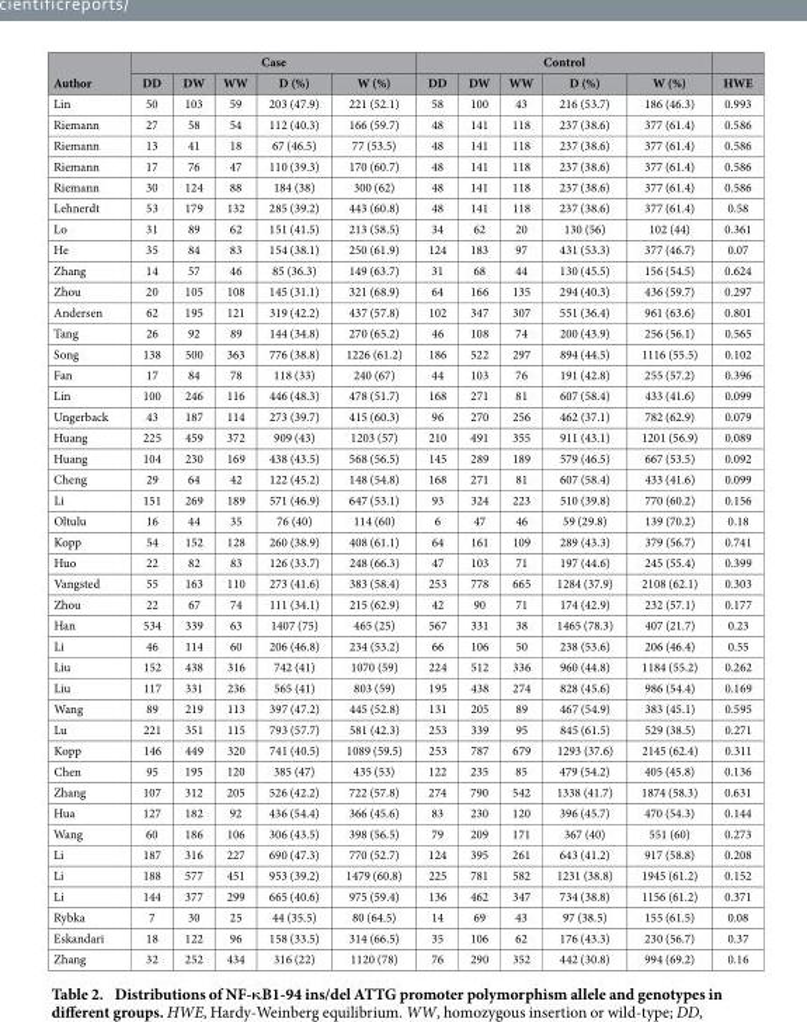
<table><thead><tr><td rowspan="2">Author</td><td colspan="5">Case</td><td colspan="5">Control</td><td rowspan="2">HWE</td></tr><tr><td>DD</td><td>DW</td><td>WW</td><td>D (%)</td><td>W (%)</td><td>DD</td><td>DW</td><td>WW</td><td>D (%)</td><td>W (%)</td></tr></thead><tbody><tr><td>Lin</td><td>50</td><td>103</td><td>59</td><td>203 (47.9)</td><td>221 (52.1)</td><td>58</td><td>100</td><td>43</td><td>216 (53.7)</td><td>186 (46.3)</td><td>0.993</td></tr><tr><td>Riemann</td><td>27</td><td>58</td><td>54</td><td>112 (40.3)</td><td>166 (59.7)</td><td>48</td><td>141</td><td>118</td><td>237 (38.6)</td><td>377 (61.4)</td><td>0.586</td></tr><tr><td>Riemann</td><td>13</td><td>41</td><td>18</td><td>67 (46.5)</td><td>77 (53.5)</td><td>48</td><td>141</td><td>118</td><td>237 (38.6)</td><td>377 (61.4)</td><td>0.586</td></tr><tr><td>Riemann</td><td>17</td><td>76</td><td>47</td><td>110 (39.3)</td><td>170 (60.7)</td><td>48</td><td>141</td><td>118</td><td>237 (38.6)</td><td>377 (61.4)</td><td>0.586</td></tr><tr><td>Riemann</td><td>30</td><td>124</td><td>88</td><td>184 (38)</td><td>300 (62)</td><td>48</td><td>141</td><td>118</td><td>237 (38.6)</td><td>377 (61.4)</td><td>0.586</td></tr><tr><td>Lehnerdt</td><td>53</td><td>179</td><td>132</td><td>285 (39.2)</td><td>443 (60.8)</td><td>48</td><td>141</td><td>118</td><td>237 (38.6)</td><td>377 (61.4)</td><td>0.58</td></tr><tr><td>Lo</td><td>31</td><td>89</td><td>62</td><td>151 (41.5)</td><td>213 (58.5)</td><td>34</td><td>62</td><td>20</td><td>130 (56)</td><td>102 (44)</td><td>0.361</td></tr><tr><td>He</td><td>35</td><td>84</td><td>83</td><td>154 (38.1)</td><td>250 (61.9)</td><td>124</td><td>183</td><td>97</td><td>431 (53.3)</td><td>377 (46.7)</td><td>0.07</td></tr><tr><td>Zhang</td><td>14</td><td>57</td><td>46</td><td>85 (36.3)</td><td>149 (63.7)</td><td>31</td><td>68</td><td>44</td><td>130 (45.5)</td><td>156 (54.5)</td><td>0.624</td></tr><tr><td>Zhou</td><td>20</td><td>105</td><td>108</td><td>145 (31.1)</td><td>321 (68.9)</td><td>64</td><td>166</td><td>135</td><td>294 (40.3)</td><td>436 (59.7)</td><td>0.297</td></tr><tr><td>Andersen</td><td>62</td><td>195</td><td>121</td><td>319 (42.2)</td><td>437 (57.8)</td><td>102</td><td>347</td><td>307</td><td>551 (36.4)</td><td>961 (63.6)</td><td>0.801</td></tr><tr><td>Tang</td><td>26</td><td>92</td><td>89</td><td>144 (34.8)</td><td>270 (65.2)</td><td>46</td><td>108</td><td>74</td><td>200 (43.9)</td><td>256 (56.1)</td><td>0.565</td></tr><tr><td>Song</td><td>138</td><td>500</td><td>363</td><td>776 (38.8)</td><td>1226 (61.2)</td><td>186</td><td>522</td><td>297</td><td>894 (44.5)</td><td>1116 (55.5)</td><td>0.102</td></tr><tr><td>Fan</td><td>17</td><td>84</td><td>78</td><td>118 (33)</td><td>240 (67)</td><td>44</td><td>103</td><td>76</td><td>191 (42.8)</td><td>255 (57.2)</td><td>0.396</td></tr><tr><td>Lin</td><td>100</td><td>246</td><td>116</td><td>446 (48.3)</td><td>478 (51.7)</td><td>168</td><td>271</td><td>81</td><td>607 (58.4)</td><td>433 (41.6)</td><td>0.099</td></tr><tr><td>Ungerback</td><td>43</td><td>187</td><td>114</td><td>273 (39.7)</td><td>415 (60.3)</td><td>96</td><td>270</td><td>256</td><td>462 (37.1)</td><td>782 (62.9)</td><td>0.079</td></tr><tr><td>Huang</td><td>225</td><td>459</td><td>372</td><td>909 (43)</td><td>1203 (57)</td><td>210</td><td>491</td><td>355</td><td>911 (43.1)</td><td>1201 (56.9)</td><td>0.089</td></tr><tr><td>Huang</td><td>104</td><td>230</td><td>169</td><td>438 (43.5)</td><td>568 (56.5)</td><td>145</td><td>289</td><td>189</td><td>579 (46.5)</td><td>667 (53.5)</td><td>0.092</td></tr><tr><td>Cheng</td><td>29</td><td>64</td><td>42</td><td>122 (45.2)</td><td>148 (54.8)</td><td>168</td><td>271</td><td>81</td><td>607 (58.4)</td><td>433 (41.6)</td><td>0.099</td></tr><tr><td>Li</td><td>151</td><td>269</td><td>189</td><td>571 (46.9)</td><td>647 (53.1)</td><td>93</td><td>324</td><td>223</td><td>510 (39.8)</td><td>770 (60.2)</td><td>0.156</td></tr><tr><td>Oltulu</td><td>16</td><td>44</td><td>35</td><td>76 (40)</td><td>114 (60)</td><td>6</td><td>47</td><td>46</td><td>59 (29.8)</td><td>139 (70.2)</td><td>0.18</td></tr><tr><td>Kopp</td><td>54</td><td>152</td><td>128</td><td>260 (38.9)</td><td>408 (61.1)</td><td>64</td><td>161</td><td>109</td><td>289 (43.3)</td><td>379 (56.7)</td><td>0.741</td></tr><tr><td>Huo</td><td>22</td><td>82</td><td>83</td><td>126 (33.7)</td><td>248 (66.3)</td><td>47</td><td>103</td><td>71</td><td>197 (44.6)</td><td>245 (55.4)</td><td>0.399</td></tr><tr><td>Vangsted</td><td>55</td><td>163</td><td>110</td><td>273 (41.6)</td><td>383 (58.4)</td><td>253</td><td>778</td><td>665</td><td>1284 (37.9)</td><td>2108 (62.1)</td><td>0.303</td></tr><tr><td>Zhou</td><td>22</td><td>67</td><td>74</td><td>111 (34.1)</td><td>215 (62.9)</td><td>42</td><td>90</td><td>71</td><td>174 (42.9)</td><td>232 (57.1)</td><td>0.177</td></tr><tr><td>Han</td><td>534</td><td>339</td><td>63</td><td>1407 (75)</td><td>465 (25)</td><td>567</td><td>331</td><td>38</td><td>1465 (78.3)</td><td>407 (21.7)</td><td>0.23</td></tr><tr><td>Li</td><td>46</td><td>114</td><td>60</td><td>206 (46.8)</td><td>234 (53.2)</td><td>66</td><td>106</td><td>50</td><td>238 (53.6)</td><td>206 (46.4)</td><td>0.55</td></tr><tr><td>Liu</td><td>152</td><td>438</td><td>316</td><td>742 (41)</td><td>1070 (59)</td><td>224</td><td>512</td><td>336</td><td>960 (44.8)</td><td>1184 (55.2)</td><td>0.262</td></tr><tr><td>Liu</td><td>117</td><td>331</td><td>236</td><td>565 (41)</td><td>803 (59)</td><td>195</td><td>438</td><td>274</td><td>828 (45.6)</td><td>986 (54.4)</td><td>0.169</td></tr><tr><td>Wang</td><td>89</td><td>219</td><td>113</td><td>397 (47.2)</td><td>445 (52.8)</td><td>131</td><td>205</td><td>89</td><td>467 (54.9)</td><td>383 (45.1)</td><td>0.595</td></tr><tr><td>Lu</td><td>221</td><td>351</td><td>115</td><td>793 (57.7)</td><td>581 (42.3)</td><td>253</td><td>339</td><td>95</td><td>845 (61.5)</td><td>529 (38.5)</td><td>0.271</td></tr><tr><td>Kopp</td><td>146</td><td>449</td><td>320</td><td>741 (40.5)</td><td>1089 (59.5)</td><td>253</td><td>787</td><td>679</td><td>1293 (37.6)</td><td>2145 (62.4)</td><td>0.311</td></tr><tr><td>Chen</td><td>95</td><td>195</td><td>120</td><td>385 (47)</td><td>435 (53)</td><td>122</td><td>235</td><td>85</td><td>479 (54.2)</td><td>405 (45.8)</td><td>0.136</td></tr><tr><td>Zhang</td><td>107</td><td>312</td><td>205</td><td>526 (42.2)</td><td>722 (57.8)</td><td>274</td><td>790</td><td>542</td><td>1338 (41.7)</td><td>1874 (58.3)</td><td>0.631</td></tr><tr><td>Hua</td><td>127</td><td>182</td><td>92</td><td>436 (54.4)</td><td>366 (45.6)</td><td>83</td><td>230</td><td>120</td><td>396 (45.7)</td><td>470 (54.3)</td><td>0.144</td></tr><tr><td>Wang</td><td>60</td><td>186</td><td>106</td><td>306 (43.5)</td><td>398 (56.5)</td><td>79</td><td>209</td><td>171</td><td>367 (40)</td><td>551 (60)</td><td>0.273</td></tr><tr><td>Li</td><td>187</td><td>316</td><td>227</td><td>690 (47.3)</td><td>770 (52.7)</td><td>124</td><td>395</td><td>261</td><td>643 (41.2)</td><td>917 (58.8)</td><td>0.208</td></tr><tr><td>Li</td><td>188</td><td>577</td><td>451</td><td>953 (39.2)</td><td>1479 (60.8)</td><td>225</td><td>781</td><td>582</td><td>1231 (38.8)</td><td>1945 (61.2)</td><td>0.152</td></tr><tr><td>Li</td><td>144</td><td>377</td><td>299</td><td>665 (40.6)</td><td>975 (59.4)</td><td>136</td><td>462</td><td>347</td><td>734 (38.8)</td><td>1156 (61.2)</td><td>0.371</td></tr><tr><td>Rybka</td><td>7</td><td>30</td><td>25</td><td>44 (35.5)</td><td>80 (64.5)</td><td>14</td><td>69</td><td>43</td><td>97 (38.5)</td><td>155 (61.5)</td><td>0.08</td></tr><tr><td>Eskandari</td><td>18</td><td>122</td><td>96</td><td>158 (33.5)</td><td>314 (66.5)</td><td>35</td><td>106</td><td>62</td><td>176 (43.3)</td><td>230 (56.7)</td><td>0.37</td></tr><tr><td>Zhang</td><td>32</td><td>252</td><td>434</td><td>316 (22)</td><td>1120 (78)</td><td>76</td><td>290</td><td>352</td><td>442 (30.8)</td><td>994 (69.2)</td><td>0.16</td></tr></tbody></table>